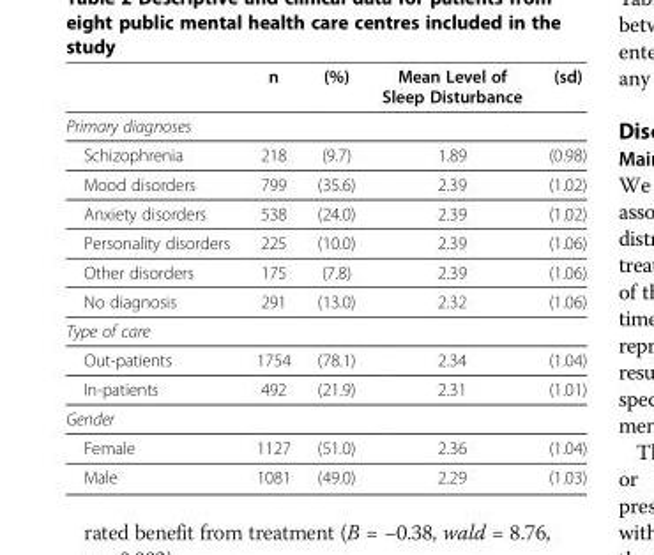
<table><thead><tr><td></td><td>n</td><td>(%)</td><td>Mean Level of Sleep Disturbance</td><td>(sd)</td></tr></thead><tbody><tr><td colspan="5">Primary diagnoses</td></tr><tr><td>Schizophrenia</td><td>218</td><td>(9.7)</td><td>1.89</td><td>(0.98)</td></tr><tr><td>Mood disorders</td><td>799</td><td>(35.6)</td><td>2.39</td><td>(1.02)</td></tr><tr><td>Anxiety disorders</td><td>538</td><td>(24.0)</td><td>2.39</td><td>(1.02)</td></tr><tr><td>Personality disorders</td><td>225</td><td>(10.0)</td><td>2.39</td><td>(1.06)</td></tr><tr><td>Other disorders</td><td>175</td><td>(7.8)</td><td>2.39</td><td>(1.06)</td></tr><tr><td>No diagnosis</td><td>291</td><td>(13.0)</td><td>2.32</td><td>(1.06)</td></tr><tr><td colspan="5">Type of care</td></tr><tr><td>Out-patients</td><td>1754</td><td>(78.1)</td><td>2.34</td><td>(1.04)</td></tr><tr><td>In-patients</td><td>492</td><td>(21.9)</td><td>2.31</td><td>(1.01)</td></tr><tr><td colspan="5">Gender</td></tr><tr><td>Female</td><td>1127</td><td>(51.0)</td><td>2.36</td><td>(1.04)</td></tr><tr><td>Male</td><td>1081</td><td>(49.0)</td><td>2.29</td><td>(1.03)</td></tr></tbody></table>